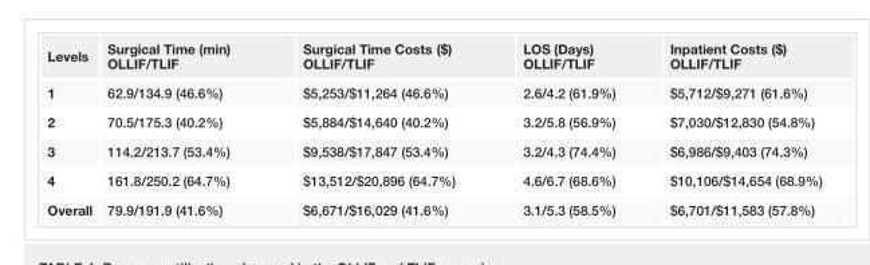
<table><tbody><tr><td>Levels</td><td>Surgical Time (min) OLLIF/TLIF</td><td>Surgical Time Costs ($) OLLIF/TLIF</td><td>LOS (Days) OLLIF/TLIF</td><td>Inpatient Costs ($) OLLIF/TLIF</td></tr><tr><td>1</td><td>62.9/134.9 (46.6%)</td><td>$5,253/$11,264 (46.6%)</td><td>2.6/4.2 (61.9%)</td><td>$5,712/$9,271 (61.6%)</td></tr><tr><td>2</td><td>70.5/175.3 (40.2%)</td><td>$5,884/$14,640 (40.2%)</td><td>3.2/5.8 (56.9%)</td><td>$7,030/$12,830 (54.8%)</td></tr><tr><td>3</td><td>114.2/213.7 (53.4%)</td><td>$9,538/$17,847 (53.4%)</td><td>3.2/4.3 (74.4%)</td><td>$6,986/$9,403 (74.3%)</td></tr><tr><td>4</td><td>161.8/250.2 (64.7%)</td><td>$13,512/$20,896 (64.7%)</td><td>4.6/6.7 (68.6%)</td><td>$10,106/$14,654 (68.9%)</td></tr><tr><td>Overall</td><td>79.9/191.9 (41.6%)</td><td>$6,671/$16,029 (41.6%)</td><td>3.1/5.3 (58.5%)</td><td>$6,701/$11,583 (57.8%)</td></tr></tbody></table>